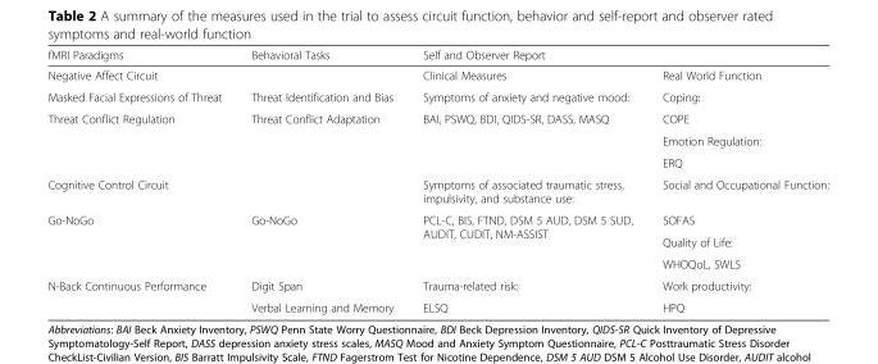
<table><thead><tr><td>fMRI Paradigms</td><td>Behavioral Tasks</td><td colspan="2">Self and Observer Report</td></tr><tr><td colspan="2">Negative Affect Circuit</td><td>Clinical Measures</td><td>Real World Function</td></tr></thead><tbody><tr><td>Masked Facial Expressions of Threat</td><td>Threat Identification and Bias</td><td>Symptoms of anxiety and negative mood:</td><td>Coping:</td></tr><tr><td rowspan="3">Threat Conflict Regulation</td><td rowspan="3">Threat Conflict Adaptation</td><td rowspan="3">BAI, PSWQ, BDI, QIDS-SR, DASS, MASQ</td><td>COPE</td></tr><tr><td>Emotion Regulation:</td></tr><tr><td>ERQ</td></tr><tr><td>Cognitive Control Circuit</td><td></td><td>Symptoms of associated traumatic stress, impulsivity, and substance use:</td><td>Social and Occupational Function:</td></tr><tr><td rowspan="3">Go-NoGo</td><td rowspan="3">Go-NoGo</td><td rowspan="3">PCL-C, BIS, FTND, DSM 5 AUD, DSM 5 SUD, AUDIT, CUDIT, NM-ASSIST</td><td>SOFAS</td></tr><tr><td>Quality of Life:</td></tr><tr><td>WHOQoL, SWLS</td></tr><tr><td rowspan="2">N-Back Continuous Performance</td><td>Digit Span</td><td>Trauma-related risk:</td><td>Work productivity:</td></tr><tr><td>Verbal Learning and Memory</td><td>ELSQ</td><td>HPQ</td></tr></tbody></table>